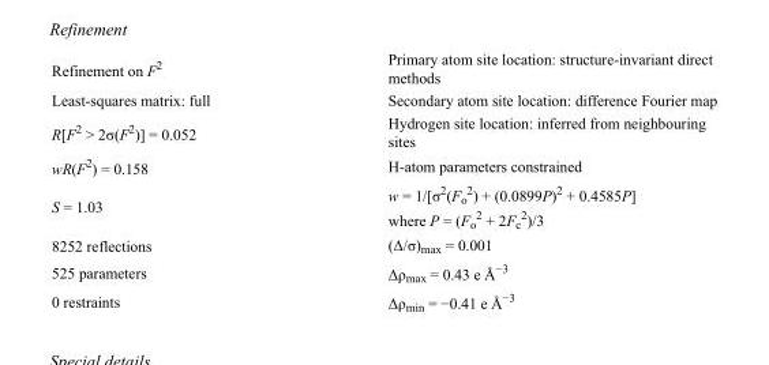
<table><tbody><tr><td>Refinement on F<sup>2</sup></td><td>Primary atom site location: structure-invariant direct methods</td></tr><tr><td>Least-squares matrix: full</td><td>Secondary atom site location: difference Fourier map</td></tr><tr><td>R[F<sup>2</sup> &gt; 2σ(F<sup>2</sup>)] = 0.052</td><td>Hydrogen site location: inferred from neighbouring sites</td></tr><tr><td>wR(F<sup>2</sup>) = 0.158</td><td>H-atom parameters constrained</td></tr><tr><td>S = 1.03</td><td>w = 1/[σ<sup>2</sup>(F<sub>o</sub> <sup>2</sup>) + (0.0899P)<sup>2</sup> + 0.4585P] where P = (F<sub>o</sub> <sup>2</sup> + 2F<sub>c</sub> <sup>2</sup>)/3</td></tr><tr><td>8252 reflections</td><td>(Δ/σ)<sub>max</sub> = 0.001</td></tr><tr><td>525 parameters</td><td>Δρ<sub>max</sub> = 0.43 e Å<sup>−3</sup></td></tr><tr><td>0 restraints</td><td>Δρ<sub>min</sub> = −0.41 e Å<sup>−3</sup></td></tr></tbody></table>